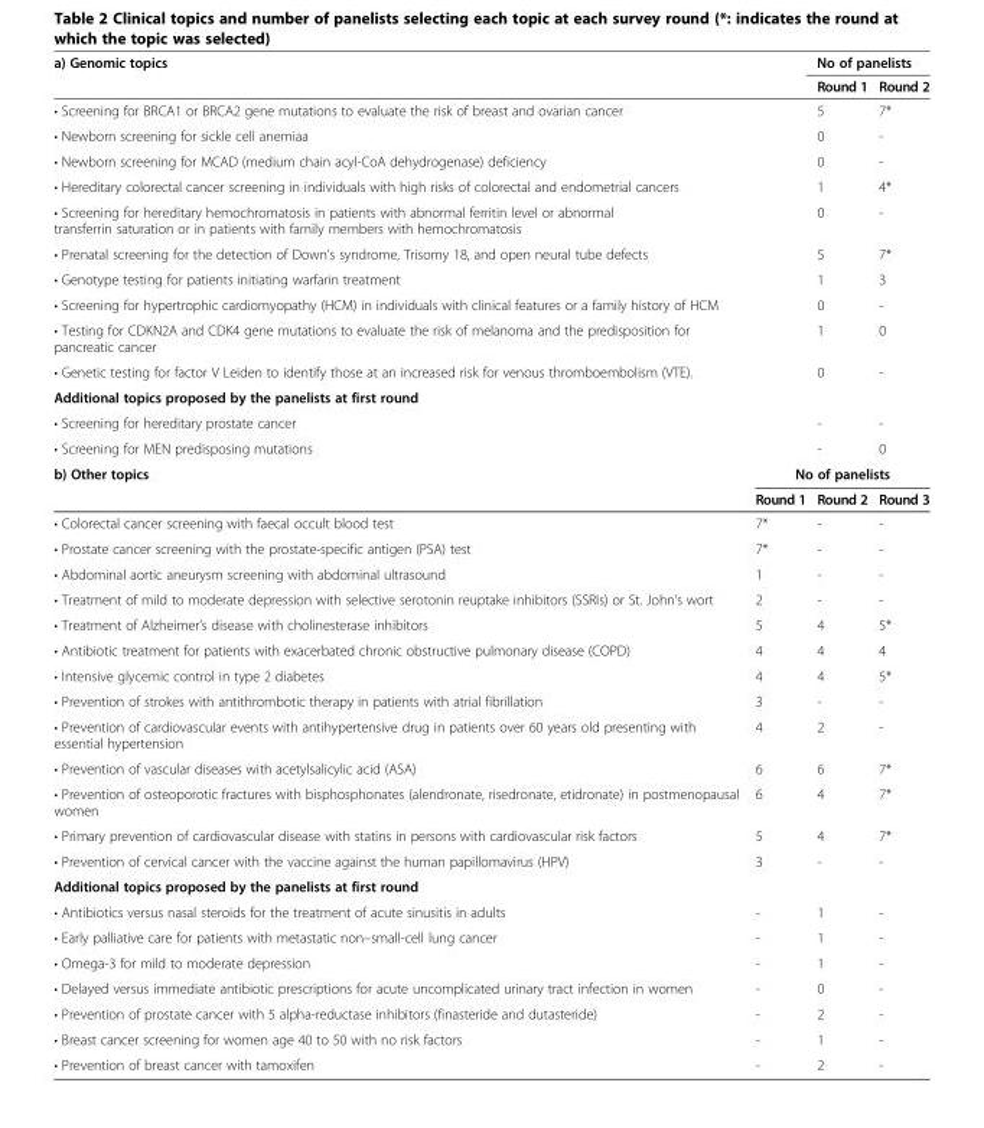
<table><thead><tr><td rowspan="2">a) Genomic topics</td><td rowspan="2"></td><td colspan="2">No of panelists</td></tr><tr><td>Round 1</td><td>Round 2</td></tr></thead><tbody><tr><td>• Screening for BRCA1 or BRCA2 gene mutations to evaluate the risk of breast and ovarian cancer</td><td></td><td>5</td><td>7*</td></tr><tr><td>• Newborn screening for sickle cell anemiaa</td><td></td><td>0</td><td>-</td></tr><tr><td>• Newborn screening for MCAD (medium chain acyl-CoA dehydrogenase) deficiency</td><td></td><td>0</td><td>-</td></tr><tr><td>• Hereditary colorectal cancer screening in individuals with high risks of colorectal and endometrial cancers</td><td></td><td>1</td><td>4*</td></tr><tr><td>• Screening for hereditary hemochromatosis in patients with abnormal ferritin level or abnormal transferrin saturation or in patients with family members with hemochromatosis</td><td></td><td>0</td><td>-</td></tr><tr><td>• Prenatal screening for the detection of Down’s syndrome, Trisomy 18, and open neural tube defects</td><td></td><td>5</td><td>7*</td></tr><tr><td>• Genotype testing for patients initiating warfarin treatment</td><td></td><td>1</td><td>3</td></tr><tr><td>• Screening for hypertrophic cardiomyopathy (HCM) in individuals with clinical features or a family history of HCM</td><td></td><td>0</td><td>-</td></tr><tr><td>• Testing for CDKN2A and CDK4 gene mutations to evaluate the risk of melanoma and the predisposition for pancreatic cancer</td><td></td><td>1</td><td>0</td></tr><tr><td>• Genetic testing for factor V Leiden to identify those at an increased risk for venous thromboembolism (VTE).</td><td></td><td>0</td><td>-</td></tr><tr><td colspan="4">Additional topics proposed by the panelists at first round</td></tr><tr><td>• Screening for hereditary prostate cancer</td><td></td><td>-</td><td>-</td></tr><tr><td>• Screening for MEN predisposing mutations</td><td></td><td>-</td><td>0</td></tr><tr><td rowspan="2">b) Other topics</td><td colspan="3">No of panelists</td></tr><tr><td>Round 1</td><td>Round 2</td><td>Round 3</td></tr><tr><td>• Colorectal cancer screening with faecal occult blood test</td><td>7*</td><td>-</td><td>-</td></tr><tr><td>• Prostate cancer screening with the prostate-specific antigen (PSA) test</td><td>7*</td><td>-</td><td>-</td></tr><tr><td>• Abdominal aortic aneurysm screening with abdominal ultrasound</td><td>1</td><td>-</td><td>-</td></tr><tr><td>• Treatment of mild to moderate depression with selective serotonin reuptake inhibitors (SSRIs) or St. John’s wort</td><td>2</td><td>-</td><td>-</td></tr><tr><td>• Treatment of Alzheimer’s disease with cholinesterase inhibitors</td><td>5</td><td>4</td><td>5*</td></tr><tr><td>• Antibiotic treatment for patients with exacerbated chronic obstructive pulmonary disease (COPD)</td><td>4</td><td>4</td><td>4</td></tr><tr><td>• Intensive glycemic control in type 2 diabetes</td><td>4</td><td>4</td><td>5*</td></tr><tr><td>• Prevention of strokes with antithrombotic therapy in patients with atrial fibrillation</td><td>3</td><td>-</td><td>-</td></tr><tr><td>• Prevention of cardiovascular events with antihypertensive drug in patients over 60 years old presenting with essential hypertension</td><td>4</td><td>2</td><td>-</td></tr><tr><td>• Prevention of vascular diseases with acetylsalicylic acid (ASA)</td><td>6</td><td>6</td><td>7*</td></tr><tr><td>• Prevention of osteoporotic fractures with bisphosphonates (alendronate, risedronate, etidronate) in postmenopausal women</td><td>6</td><td>4</td><td>7*</td></tr><tr><td>• Primary prevention of cardiovascular disease with statins in persons with cardiovascular risk factors</td><td>5</td><td>4</td><td>7*</td></tr><tr><td>• Prevention of cervical cancer with the vaccine against the human papillomavirus (HPV)</td><td>3</td><td>-</td><td>-</td></tr><tr><td colspan="4">Additional topics proposed by the panelists at first round</td></tr><tr><td>• Antibiotics versus nasal steroids for the treatment of acute sinusitis in adults</td><td>-</td><td>1</td><td>-</td></tr><tr><td>• Early palliative care for patients with metastatic non–small-cell lung cancer</td><td>-</td><td>1</td><td>-</td></tr><tr><td>• Omega-3 for mild to moderate depression</td><td>-</td><td>1</td><td>-</td></tr><tr><td>• Delayed versus immediate antibiotic prescriptions for acute uncomplicated urinary tract infection in women</td><td>-</td><td>0</td><td>-</td></tr><tr><td>• Prevention of prostate cancer with 5 alpha-reductase inhibitors (finasteride and dutasteride)</td><td>-</td><td>2</td><td>-</td></tr><tr><td>• Breast cancer screening for women age 40 to 50 with no risk factors</td><td>-</td><td>1</td><td>-</td></tr><tr><td>• Prevention of breast cancer with tamoxifen</td><td>-</td><td>2</td><td>-</td></tr></tbody></table>